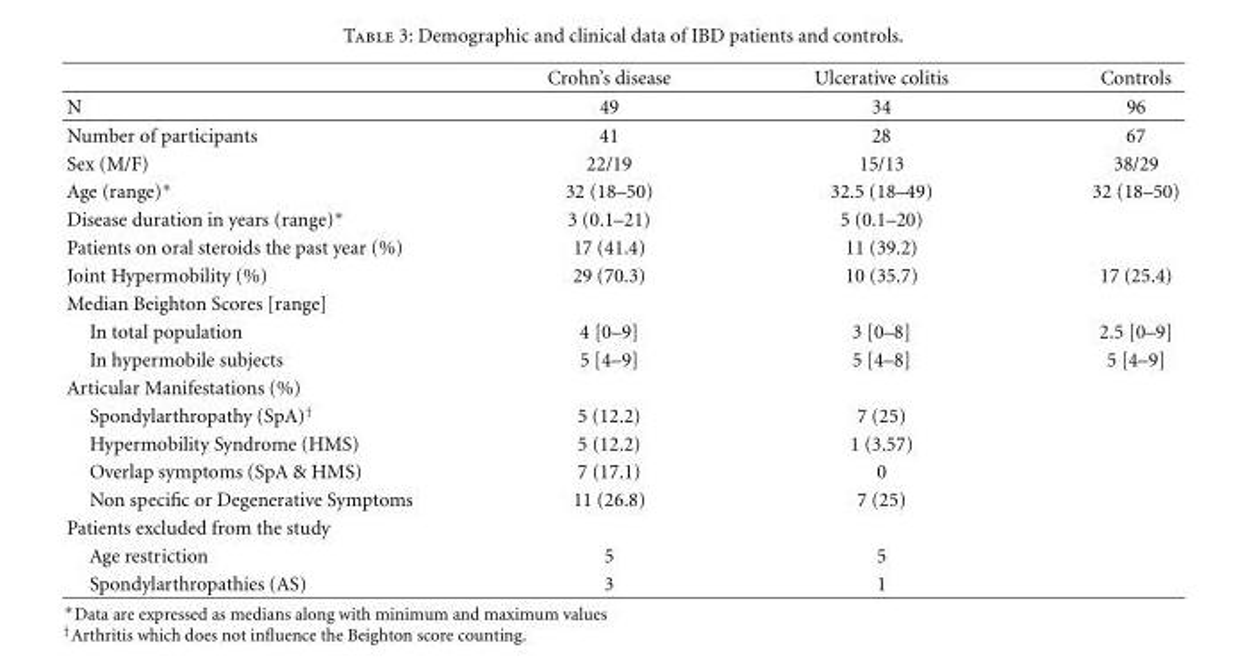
<table><thead><tr><td></td><td>Crohn’s disease</td><td>Ulcerative colitis</td><td>Controls</td></tr></thead><tbody><tr><td>N</td><td>49</td><td>34</td><td>96</td></tr><tr><td>Number of participants</td><td>41</td><td>28</td><td>67</td></tr><tr><td>Sex (M/F)</td><td>22/19</td><td>15/13</td><td>38/29</td></tr><tr><td>Age (range)∗</td><td>32 (18–50)</td><td>32.5 (18–49)</td><td>32 (18–50)</td></tr><tr><td>Disease duration in years (range)∗</td><td>3 (0.1–21)</td><td>5 (0.1–20)</td><td></td></tr><tr><td>Patients on oral steroids the past year (%)</td><td>17 (41.4)</td><td>11 (39.2)</td><td></td></tr><tr><td>Joint Hypermobility (%)</td><td>29 (70.3)</td><td>10 (35.7)</td><td>17 (25.4)</td></tr><tr><td colspan="4">Median Beighton Scores [range]</td></tr><tr><td>In total population</td><td>4 [0–9]</td><td>3 [0–8]</td><td>2.5 [0–9]</td></tr><tr><td>In hypermobile subjects</td><td>5 [4–9]</td><td>5 [4–8]</td><td>5 [4–9]</td></tr><tr><td colspan="4">Articular Manifestations (%)</td></tr><tr><td>Spondylarthropathy (SpA)<sup>†</sup></td><td>5 (12.2)</td><td>7 (25)</td><td></td></tr><tr><td>Hypermobility Syndrome (HMS)</td><td>5 (12.2)</td><td>1 (3.57)</td><td></td></tr><tr><td>Overlap symptoms (SpA &amp; HMS)</td><td>7 (17.1)</td><td>0</td><td></td></tr><tr><td>Non specific or Degenerative Symptoms</td><td>11 (26.8)</td><td>7 (25)</td><td></td></tr><tr><td colspan="4">Patients excluded from the study</td></tr><tr><td>Age restriction</td><td>5</td><td>5</td><td></td></tr><tr><td>Spondylarthropathies (AS)</td><td>3</td><td>1</td><td></td></tr></tbody></table>